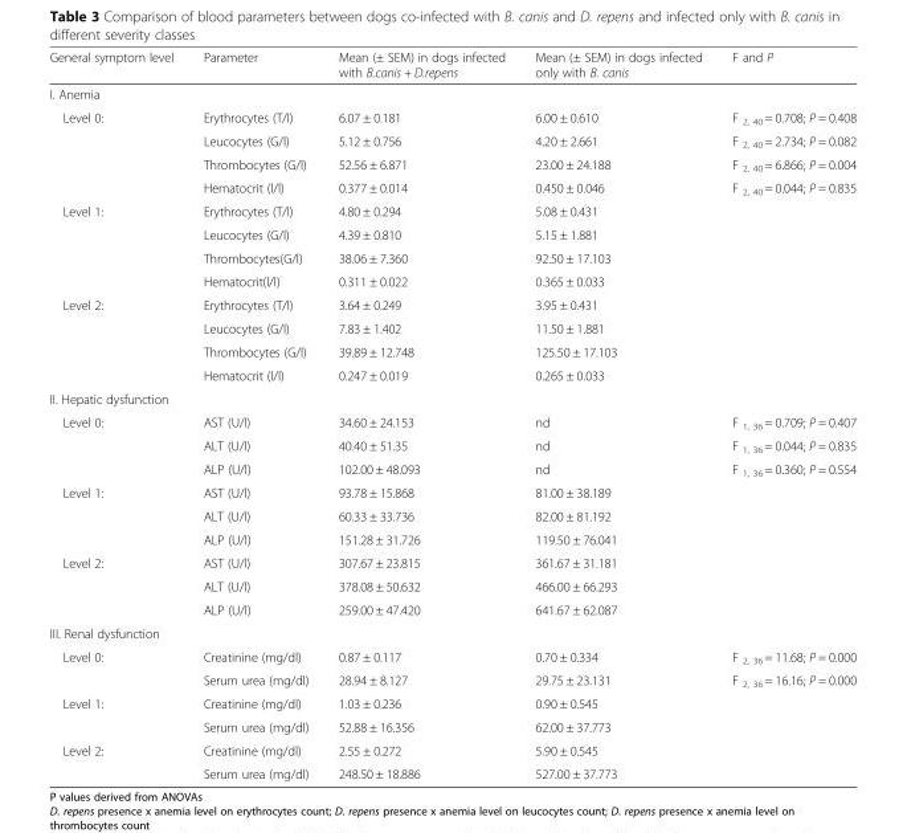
<table><thead><tr><td>General symptom level</td><td>Parameter</td><td>Mean (± SEM) in dogs infected with B.canis + D.repens</td><td>Mean (± SEM) in dogs infected only with B. canis</td><td>F and P</td></tr></thead><tbody><tr><td colspan="5">I. Anemia</td></tr><tr><td rowspan="4">Level 0:</td><td>Erythrocytes (T/l)</td><td>6.07 ± 0.181</td><td>6.00 ± 0.610</td><td>F <sub>2, 40</sub> = 0.708; P = 0.408</td></tr><tr><td>Leucocytes (G/l)</td><td>5.12 ± 0.756</td><td>4.20 ± 2.661</td><td>F <sub>2, 40</sub> = 2.734; P = 0.082</td></tr><tr><td>Thrombocytes (G/l)</td><td>52.56 ± 6.871</td><td>23.00 ± 24.188</td><td>F <sub>2, 40</sub> = 6.866; P = 0.004</td></tr><tr><td>Hematocrit (l/l)</td><td>0.377 ± 0.014</td><td>0.450 ± 0.046</td><td>F <sub>2, 40</sub> = 0.044; P = 0.835</td></tr><tr><td rowspan="4">Level 1:</td><td>Erythrocytes (T/l)</td><td>4.80 ± 0.294</td><td>5.08 ± 0.431</td><td></td></tr><tr><td>Leucocytes (G/l)</td><td>4.39 ± 0.810</td><td>5.15 ± 1.881</td><td></td></tr><tr><td>Thrombocytes(G/l)</td><td>38.06 ± 7.360</td><td>92.50 ± 17.103</td><td></td></tr><tr><td>Hematocrit(l/l)</td><td>0.311 ± 0.022</td><td>0.365 ± 0.033</td><td></td></tr><tr><td rowspan="4">Level 2:</td><td>Erythrocytes (T/l)</td><td>3.64 ± 0.249</td><td>3.95 ± 0.431</td><td></td></tr><tr><td>Leucocytes (G/l)</td><td>7.83 ± 1.402</td><td>11.50 ± 1.881</td><td></td></tr><tr><td>Thrombocytes (G/l)</td><td>39.89 ± 12.748</td><td>125.50 ± 17.103</td><td></td></tr><tr><td>Hematocrit (l/l)</td><td>0.247 ± 0.019</td><td>0.265 ± 0.033</td><td></td></tr><tr><td colspan="5">II. Hepatic dysfunction</td></tr><tr><td rowspan="3">Level 0:</td><td>AST (U/l)</td><td>34.60 ± 24.153</td><td>nd</td><td>F <sub>1, 36</sub> = 0.709; P = 0.407</td></tr><tr><td>ALT (U/l)</td><td>40.40 ± 51.35</td><td>nd</td><td>F <sub>1, 36</sub> = 0.044; P = 0.835</td></tr><tr><td>ALP (U/l)</td><td>102.00 ± 48.093</td><td>nd</td><td>F <sub>1, 36</sub> = 0.360; P = 0.554</td></tr><tr><td rowspan="3">Level 1:</td><td>AST (U/l)</td><td>93.78 ± 15.868</td><td>81.00 ± 38.189</td><td></td></tr><tr><td>ALT (U/l)</td><td>60.33 ± 33.736</td><td>82.00 ± 81.192</td><td></td></tr><tr><td>ALP (U/l)</td><td>151.28 ± 31.726</td><td>119.50 ± 76.041</td><td></td></tr><tr><td rowspan="3">Level 2:</td><td>AST (U/l)</td><td>307.67 ± 23.815</td><td>361.67 ± 31.181</td><td></td></tr><tr><td>ALT (U/l)</td><td>378.08 ± 50.632</td><td>466.00 ± 66.293</td><td></td></tr><tr><td>ALP (U/l)</td><td>259.00 ± 47.420</td><td>641.67 ± 62.087</td><td></td></tr><tr><td colspan="5">III. Renal dysfunction</td></tr><tr><td rowspan="2">Level 0:</td><td>Creatinine (mg/dl)</td><td>0.87 ± 0.117</td><td>0.70 ± 0.334</td><td>F <sub>2, 36</sub> = 11.68; P = 0.000</td></tr><tr><td>Serum urea (mg/dl)</td><td>28.94 ± 8.127</td><td>29.75 ± 23.131</td><td>F <sub>2, 36</sub> = 16.16; P = 0.000</td></tr><tr><td rowspan="2">Level 1:</td><td>Creatinine (mg/dl)</td><td>1.03 ± 0.236</td><td>0.90 ± 0.545</td><td></td></tr><tr><td>Serum urea (mg/dl)</td><td>52.88 ± 16.356</td><td>62.00 ± 37.773</td><td></td></tr><tr><td rowspan="2">Level 2:</td><td>Creatinine (mg/dl)</td><td>2.55 ± 0.272</td><td>5.90 ± 0.545</td><td></td></tr><tr><td>Serum urea (mg/dl)</td><td>248.50 ± 18.886</td><td>527.00 ± 37.773</td><td></td></tr></tbody></table>